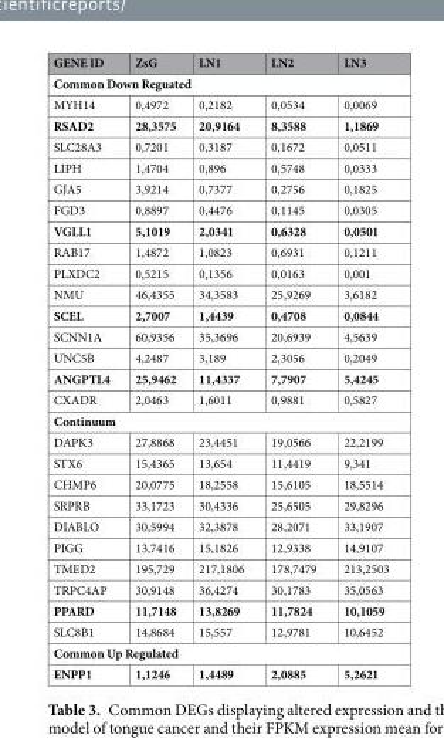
<table><thead><tr><td>GENE ID</td><td>ZsG</td><td>LN1</td><td>LN2</td><td>LN3</td></tr></thead><tbody><tr><td colspan="5">Common Down Reguated</td></tr><tr><td>MYH14</td><td>0,4972</td><td>0,2182</td><td>0,0534</td><td>0,0069</td></tr><tr><td>RSAD2</td><td>28,3575</td><td>20,9164</td><td>8,3588</td><td>1,1869</td></tr><tr><td>SLC28A3</td><td>0,7201</td><td>0,3187</td><td>0,1672</td><td>0,0511</td></tr><tr><td>LIPH</td><td>1,4704</td><td>0,896</td><td>0,5748</td><td>0,0333</td></tr><tr><td>GJA5</td><td>3,9214</td><td>0,7377</td><td>0,2756</td><td>0,1825</td></tr><tr><td>FGD3</td><td>0,8897</td><td>0,4476</td><td>0,1145</td><td>0,0305</td></tr><tr><td>VGLL1</td><td>5,1019</td><td>2,0341</td><td>0,6328</td><td>0,0501</td></tr><tr><td>RAB17</td><td>1,4872</td><td>1,0823</td><td>0,6931</td><td>0,1211</td></tr><tr><td>PLXDC2</td><td>0,5215</td><td>0,1356</td><td>0,0163</td><td>0,001</td></tr><tr><td>NMU</td><td>46,4355</td><td>34,3583</td><td>25,9269</td><td>3,6182</td></tr><tr><td>SCEL</td><td>2,7007</td><td>1,4439</td><td>0,4708</td><td>0,0844</td></tr><tr><td>SCNN1A</td><td>60,9356</td><td>35,3696</td><td>20,6939</td><td>4,5639</td></tr><tr><td>UNC5B</td><td>4,2487</td><td>3,189</td><td>2,3056</td><td>0,2049</td></tr><tr><td>ANGPTL4</td><td>25,9462</td><td>11,4337</td><td>7,7907</td><td>5,4245</td></tr><tr><td>CXADR</td><td>2,0463</td><td>1,6011</td><td>0,9881</td><td>0,5827</td></tr><tr><td colspan="5">Continuum</td></tr><tr><td>DAPK3</td><td>27,8868</td><td>23,4451</td><td>19,0566</td><td>22,2199</td></tr><tr><td>STX6</td><td>15,4365</td><td>13,654</td><td>11,4419</td><td>9,341</td></tr><tr><td>CHMP6</td><td>20,0775</td><td>18,2558</td><td>15,6105</td><td>18,5514</td></tr><tr><td>SRPRB</td><td>33,1723</td><td>30,4336</td><td>25,6505</td><td>29,8296</td></tr><tr><td>DIABLO</td><td>30,5994</td><td>32,3878</td><td>28,2071</td><td>33,1907</td></tr><tr><td>PIGG</td><td>13,7416</td><td>15,1826</td><td>12,9338</td><td>14,9107</td></tr><tr><td>TMED2</td><td>195,729</td><td>217,1806</td><td>178,7479</td><td>213,2503</td></tr><tr><td>TRPC4AP</td><td>30,9148</td><td>36,4274</td><td>30,1783</td><td>35,0563</td></tr><tr><td>PPARD</td><td>11,7148</td><td>13,8269</td><td>11,7824</td><td>10,1059</td></tr><tr><td>SLC8B1</td><td>14,8684</td><td>15,557</td><td>12,9781</td><td>10,6452</td></tr><tr><td colspan="5">Common Up Regulated</td></tr><tr><td>ENPP1</td><td>1,1246</td><td>1,4489</td><td>2,0885</td><td>5,2621</td></tr></tbody></table>